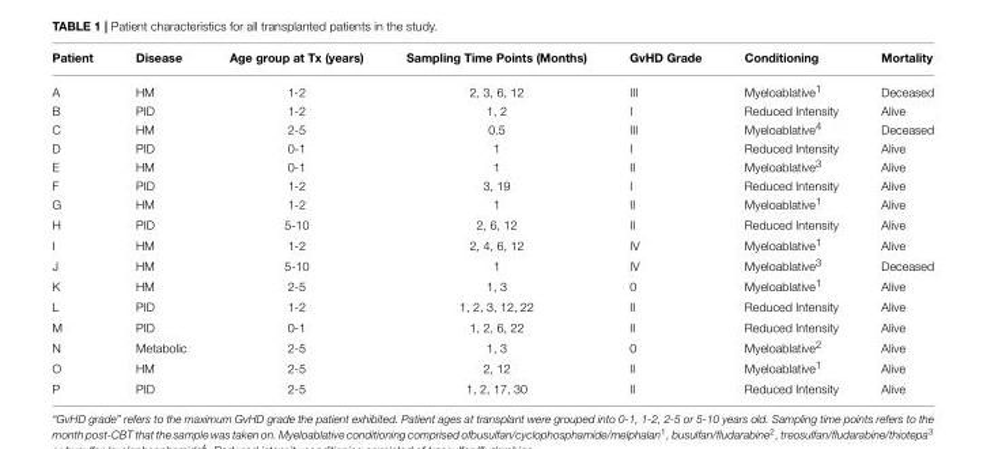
<table><thead><tr><td>Patient</td><td>Disease</td><td>Age group at Tx (years)</td><td>Sampling Time Points (Months)</td><td>GvHD Grade</td><td>Conditioning</td><td>Mortality</td></tr></thead><tbody><tr><td>A</td><td>HM</td><td>1-2</td><td>2, 3, 6, 12</td><td>III</td><td>Myeloablative<sup>1</sup></td><td>Deceased</td></tr><tr><td>B</td><td>PID</td><td>1-2</td><td>1, 2</td><td>I</td><td>Reduced Intensity</td><td>Alive</td></tr><tr><td>C</td><td>HM</td><td>2-5</td><td>0.5</td><td>III</td><td>Myeloablative<sup>4</sup></td><td>Deceased</td></tr><tr><td>D</td><td>PID</td><td>0-1</td><td>1</td><td>I</td><td>Reduced Intensity</td><td>Alive</td></tr><tr><td>E</td><td>HM</td><td>0-1</td><td>1</td><td>II</td><td>Myeloablative<sup>3</sup></td><td>Alive</td></tr><tr><td>F</td><td>PID</td><td>1-2</td><td>3, 19</td><td>I</td><td>Reduced Intensity</td><td>Alive</td></tr><tr><td>G</td><td>HM</td><td>1-2</td><td>1</td><td>II</td><td>Myeloablative<sup>1</sup></td><td>Alive</td></tr><tr><td>H</td><td>PID</td><td>5-10</td><td>2, 6, 12</td><td>II</td><td>Reduced Intensity</td><td>Alive</td></tr><tr><td>I</td><td>HM</td><td>1-2</td><td>2, 4, 6, 12</td><td>IV</td><td>Myeloablative<sup>1</sup></td><td>Alive</td></tr><tr><td>J</td><td>HM</td><td>5-10</td><td>1</td><td>IV</td><td>Myeloablative<sup>3</sup></td><td>Deceased</td></tr><tr><td>K</td><td>HM</td><td>2-5</td><td>1, 3</td><td>0</td><td>Myeloablative<sup>1</sup></td><td>Alive</td></tr><tr><td>L</td><td>PID</td><td>1-2</td><td>1, 2, 3, 12, 22</td><td>II</td><td>Reduced Intensity</td><td>Alive</td></tr><tr><td>M</td><td>PID</td><td>0-1</td><td>1, 2, 6, 22</td><td>II</td><td>Reduced Intensity</td><td>Alive</td></tr><tr><td>N</td><td>Metabolic</td><td>2-5</td><td>1, 3</td><td>0</td><td>Myeloablative<sup>2</sup></td><td>Alive</td></tr><tr><td>O</td><td>HM</td><td>2-5</td><td>2, 12</td><td>II</td><td>Myeloablative<sup>1</sup></td><td>Alive</td></tr><tr><td>P</td><td>PID</td><td>2-5</td><td>1, 2, 17, 30</td><td>II</td><td>Reduced Intensity</td><td>Alive</td></tr></tbody></table>